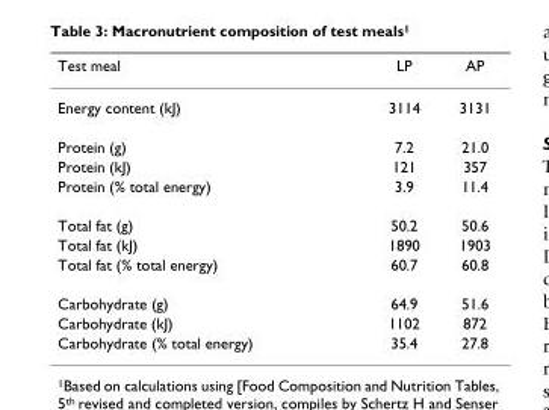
<table><thead><tr><td>Test meal</td><td>LP</td><td>AP</td></tr></thead><tbody><tr><td>Energy content (kJ)</td><td>3114</td><td>3131</td></tr><tr><td>Protein (g)</td><td>7.2</td><td>21.0</td></tr><tr><td>Protein (kJ)</td><td>121</td><td>357</td></tr><tr><td>Protein (% total energy)</td><td>3.9</td><td>11.4</td></tr><tr><td>Total fat (g)</td><td>50.2</td><td>50.6</td></tr><tr><td>Total fat (kJ)</td><td>1890</td><td>1903</td></tr><tr><td>Total fat (% total energy)</td><td>60.7</td><td>60.8</td></tr><tr><td>Carbohydrate (g)</td><td>64.9</td><td>51.6</td></tr><tr><td>Carbohydrate (kJ)</td><td>1102</td><td>872</td></tr><tr><td>Carbohydrate (% total energy)</td><td>35.4</td><td>27.8</td></tr></tbody></table>